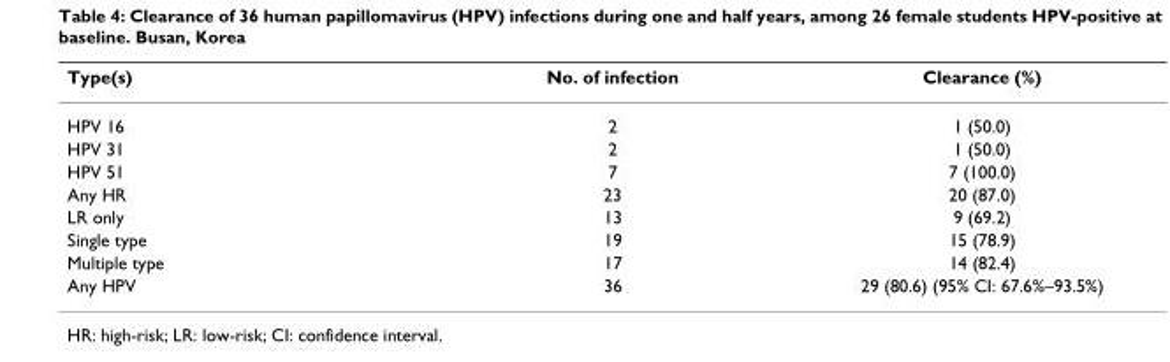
<table><thead><tr><td>Type(s)</td><td>No. of infection</td><td>Clearance (%)</td></tr></thead><tbody><tr><td>HPV 16</td><td>2</td><td>1 (50.0)</td></tr><tr><td>HPV 31</td><td>2</td><td>1 (50.0)</td></tr><tr><td>HPV 51</td><td>7</td><td>7 (100.0)</td></tr><tr><td>Any HR</td><td>23</td><td>20 (87.0)</td></tr><tr><td>LR only</td><td>13</td><td>9 (69.2)</td></tr><tr><td>Single type</td><td>19</td><td>15 (78.9)</td></tr><tr><td>Multiple type</td><td>17</td><td>14 (82.4)</td></tr><tr><td>Any HPV</td><td>36</td><td>29 (80.6) (95% CI: 67.6%–93.5%)</td></tr></tbody></table>